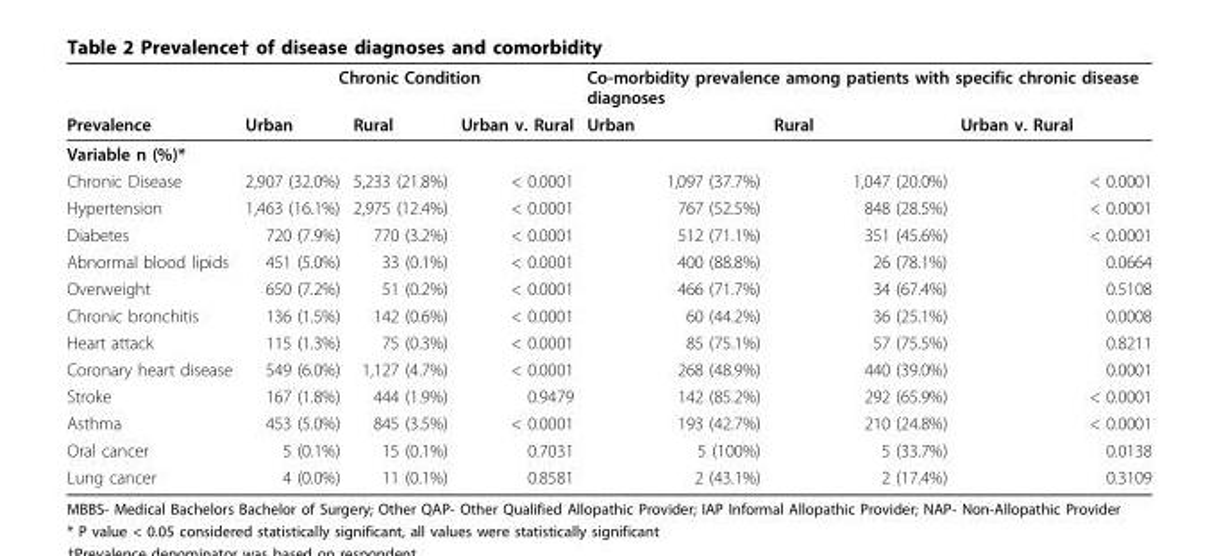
<table><thead><tr><td rowspan="2">Prevalence</td><td colspan="3">Chronic Condition</td><td colspan="3">Co-morbidity prevalence among patients with specific chronic disease diagnoses</td></tr><tr><td>Urban</td><td>Rural</td><td>Urban v. Rural</td><td>Urban</td><td>Rural</td><td>Urban v. Rural</td></tr></thead><tbody><tr><td colspan="7">Variable n (%)*</td></tr><tr><td>Chronic Disease</td><td>2,907 (32.0%)</td><td>5,233 (21.8%)</td><td>&lt; 0.0001</td><td>1,097 (37.7%)</td><td>1,047 (20.0%)</td><td>&lt; 0.0001</td></tr><tr><td>Hypertension</td><td>1,463 (16.1%)</td><td>2,975 (12.4%)</td><td>&lt; 0.0001</td><td>767 (52.5%)</td><td>848 (28.5%)</td><td>&lt; 0.0001</td></tr><tr><td>Diabetes</td><td>720 (7.9%)</td><td>770 (3.2%)</td><td>&lt; 0.0001</td><td>512 (71.1%)</td><td>351 (45.6%)</td><td>&lt; 0.0001</td></tr><tr><td>Abnormal blood lipids</td><td>451 (5.0%)</td><td>33 (0.1%)</td><td>&lt; 0.0001</td><td>400 (88.8%)</td><td>26 (78.1%)</td><td>0.0664</td></tr><tr><td>Overweight</td><td>650 (7.2%)</td><td>51 (0.2%)</td><td>&lt; 0.0001</td><td>466 (71.7%)</td><td>34 (67.4%)</td><td>0.5108</td></tr><tr><td>Chronic bronchitis</td><td>136 (1.5%)</td><td>142 (0.6%)</td><td>&lt; 0.0001</td><td>60 (44.2%)</td><td>36 (25.1%)</td><td>0.0008</td></tr><tr><td>Heart attack</td><td>115 (1.3%)</td><td>75 (0.3%)</td><td>&lt; 0.0001</td><td>85 (75.1%)</td><td>57 (75.5%)</td><td>0.8211</td></tr><tr><td>Coronary heart disease</td><td>549 (6.0%)</td><td>1,127 (4.7%)</td><td>&lt; 0.0001</td><td>268 (48.9%)</td><td>440 (39.0%)</td><td>0.0001</td></tr><tr><td>Stroke</td><td>167 (1.8%)</td><td>444 (1.9%)</td><td>0.9479</td><td>142 (85.2%)</td><td>292 (65.9%)</td><td>&lt; 0.0001</td></tr><tr><td>Asthma</td><td>453 (5.0%)</td><td>845 (3.5%)</td><td>&lt; 0.0001</td><td>193 (42.7%)</td><td>210 (24.8%)</td><td>&lt; 0.0001</td></tr><tr><td>Oral cancer</td><td>5 (0.1%)</td><td>15 (0.1%)</td><td>0.7031</td><td>5 (100%)</td><td>5 (33.7%)</td><td>0.0138</td></tr><tr><td>Lung cancer</td><td>4 (0.0%)</td><td>11 (0.1%)</td><td>0.8581</td><td>2 (43.1%)</td><td>2 (17.4%)</td><td>0.3109</td></tr></tbody></table>